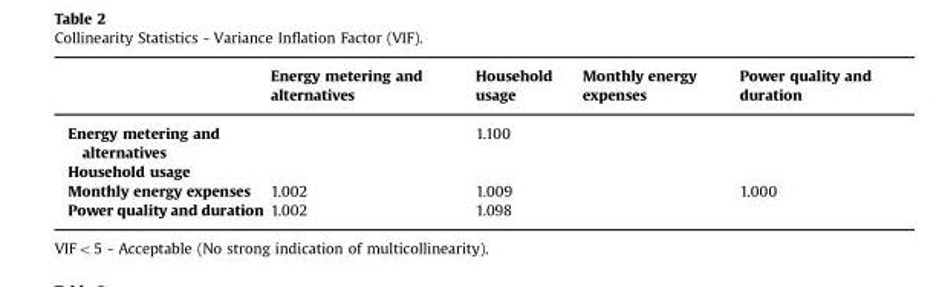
<table><thead><tr><td></td><td>Energy metering and alternatives</td><td>Household usage</td><td>Monthly energy expenses</td><td>Power quality and duration</td></tr></thead><tbody><tr><td>Energy metering and alternatives</td><td></td><td>1.100</td><td></td><td></td></tr><tr><td colspan="5">Household usage</td></tr><tr><td>Monthly energy expenses</td><td>1.002</td><td>1.009</td><td></td><td>1.000</td></tr><tr><td>Power quality and duration</td><td>1.002</td><td>1.098</td><td></td><td></td></tr></tbody></table>